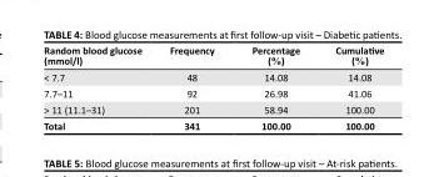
<table><thead><tr><td>Random blood glucose (mmol/l)</td><td>Frequency</td><td>Percentage (%)</td><td>Cumulative (%)</td></tr></thead><tbody><tr><td>&lt; 7.7</td><td>48</td><td>14.08</td><td>14.08</td></tr><tr><td>7.7–11</td><td>92</td><td>26.98</td><td>41.06</td></tr><tr><td>&gt; 11 (11.1–31)</td><td>201</td><td>58.94</td><td>100.00</td></tr><tr><td>Total</td><td>341</td><td>100.00</td><td>100.00</td></tr></tbody></table>